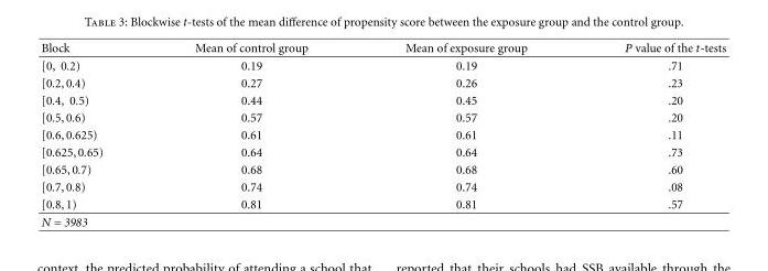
<table><thead><tr><td>Block</td><td>Mean of control group</td><td>Mean of exposure group</td><td>P value of the t-tests</td></tr></thead><tbody><tr><td>[0, 0.2)</td><td>0.19</td><td>0.19</td><td>.71</td></tr><tr><td>[0.2,0.4)</td><td>0.27</td><td>0.26</td><td>.23</td></tr><tr><td>[0.4, 0.5)</td><td>0.44</td><td>0.45</td><td>.20</td></tr><tr><td>[0.5,0.6)</td><td>0.57</td><td>0.57</td><td>.20</td></tr><tr><td>[0.6,0.625)</td><td>0.61</td><td>0.61</td><td>.11</td></tr><tr><td>[0.625,0.65)</td><td>0.64</td><td>0.64</td><td>.73</td></tr><tr><td>[0.65,0.7)</td><td>0.68</td><td>0.68</td><td>.60</td></tr><tr><td>[0.7,0.8)</td><td>0.74</td><td>0.74</td><td>.08</td></tr><tr><td>[0.8,1)</td><td>0.81</td><td>0.81</td><td>.57</td></tr><tr><td>N = 3983</td><td></td><td></td><td></td></tr></tbody></table>